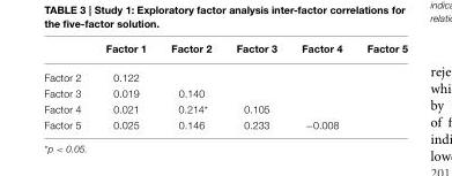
<table><thead><tr><td></td><td>Factor 1</td><td>Factor 2</td><td>Factor 3</td><td>Factor 4</td><td>Factor 5</td></tr></thead><tbody><tr><td>Factor 2</td><td>0.122</td><td></td><td></td><td></td><td></td></tr><tr><td>Factor 3</td><td>0.019</td><td>0.140</td><td></td><td></td><td></td></tr><tr><td>Factor 4</td><td>0.021</td><td>0.214*</td><td>0.105</td><td></td><td></td></tr><tr><td>Factor 5</td><td>0.025</td><td>0.146</td><td>0.233</td><td>−0.008</td><td></td></tr></tbody></table>